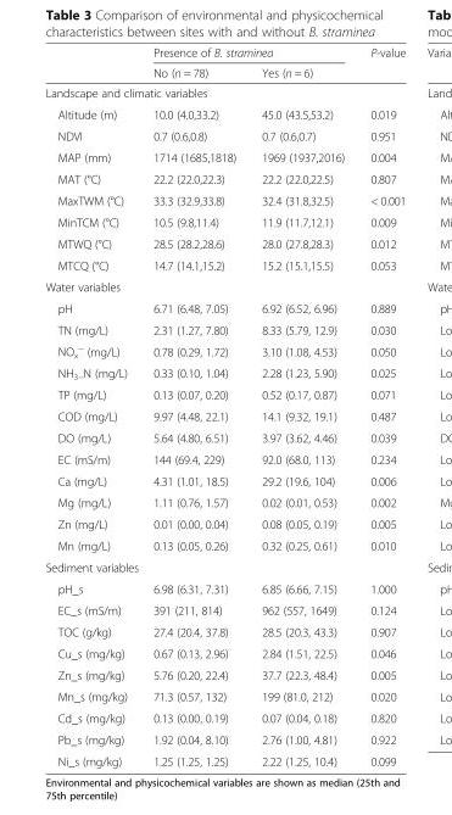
<table><thead><tr><td rowspan="2"></td><td colspan="2">Presence of B. straminea</td><td rowspan="2">P-value</td></tr><tr><td>No (n = 78)</td><td>Yes (n = 6)</td></tr></thead><tbody><tr><td colspan="4">Landscape and climatic variables</td></tr><tr><td>Altitude (m)</td><td>10.0 (4.0,33.2)</td><td>45.0 (43.5,53.2)</td><td>0.019</td></tr><tr><td>NDVI</td><td>0.7 (0.6,0.8)</td><td>0.7 (0.6,0.7)</td><td>0.951</td></tr><tr><td>MAP (mm)</td><td>1714 (1685,1818)</td><td>1969 (1937,2016)</td><td>0.004</td></tr><tr><td>MAT (°C)</td><td>22.2 (22.0,22.3)</td><td>22.2 (22.0,22.5)</td><td>0.807</td></tr><tr><td>MaxTWM (°C)</td><td>33.3 (32.9,33.8)</td><td>32.4 (31.8,32.5)</td><td>&lt; 0.001</td></tr><tr><td>MinTCM (°C)</td><td>10.5 (9.8,11.4)</td><td>11.9 (11.7,12.1)</td><td>0.009</td></tr><tr><td>MTWQ (°C)</td><td>28.5 (28.2,28.6)</td><td>28.0 (27.8,28.3)</td><td>0.012</td></tr><tr><td>MTCQ (°C)</td><td>14.7 (14.1,15.2)</td><td>15.2 (15.1,15.5)</td><td>0.053</td></tr><tr><td colspan="4">Water variables</td></tr><tr><td>pH</td><td>6.71 (6.48, 7.05)</td><td>6.92 (6.52, 6.96)</td><td>0.889</td></tr><tr><td>TN (mg/L)</td><td>2.31 (1.27, 7.80)</td><td>8.33 (5.79, 12.9)</td><td>0.030</td></tr><tr><td>NO<sub>x</sub> <sup>−</sup> (mg/L)</td><td>0.78 (0.29, 1.72)</td><td>3.10 (1.08, 4.53)</td><td>0.050</td></tr><tr><td>NH<sub>3−</sub>N (mg/L)</td><td>0.33 (0.10, 1.04)</td><td>2.28 (1.23, 5.90)</td><td>0.025</td></tr><tr><td>TP (mg/L)</td><td>0.13 (0.07, 0.20)</td><td>0.52 (0.17, 0.87)</td><td>0.071</td></tr><tr><td>COD (mg/L)</td><td>9.97 (4.48, 22.1)</td><td>14.1 (9.32, 19.1)</td><td>0.487</td></tr><tr><td>DO (mg/L)</td><td>5.64 (4.80, 6.51)</td><td>3.97 (3.62, 4.46)</td><td>0.039</td></tr><tr><td>EC (mS/m)</td><td>144 (69.4, 229)</td><td>92.0 (68.0, 113)</td><td>0.234</td></tr><tr><td>Ca (mg/L)</td><td>4.31 (1.01, 18.5)</td><td>29.2 (19.6, 104)</td><td>0.006</td></tr><tr><td>Mg (mg/L)</td><td>1.11 (0.76, 1.57)</td><td>0.02 (0.01, 0.53)</td><td>0.002</td></tr><tr><td>Zn (mg/L)</td><td>0.01 (0.00, 0.04)</td><td>0.08 (0.05, 0.19)</td><td>0.005</td></tr><tr><td>Mn (mg/L)</td><td>0.13 (0.05, 0.26)</td><td>0.32 (0.25, 0.61)</td><td>0.010</td></tr><tr><td colspan="4">Sediment variables</td></tr><tr><td>pH_s</td><td>6.98 (6.31, 7.31)</td><td>6.85 (6.66, 7.15)</td><td>1.000</td></tr><tr><td>EC_s (mS/m)</td><td>391 (211, 814)</td><td>962 (557, 1649)</td><td>0.124</td></tr><tr><td>TOC (g/kg)</td><td>27.4 (20.4, 37.8)</td><td>28.5 (20.3, 43.3)</td><td>0.907</td></tr><tr><td>Cu_s (mg/kg)</td><td>0.67 (0.13, 2.96)</td><td>2.84 (1.51, 22.5)</td><td>0.046</td></tr><tr><td>Zn_s (mg/kg)</td><td>5.76 (0.20, 22.4)</td><td>37.7 (22.3, 48.4)</td><td>0.005</td></tr><tr><td>Mn_s (mg/kg)</td><td>71.3 (0.57, 132)</td><td>199 (81.0, 212)</td><td>0.020</td></tr><tr><td>Cd_s (mg/kg)</td><td>0.13 (0.00, 0.19)</td><td>0.07 (0.04, 0.18)</td><td>0.820</td></tr><tr><td>Pb_s (mg/kg)</td><td>1.92 (0.04, 8.10)</td><td>2.76 (1.00, 4.81)</td><td>0.922</td></tr><tr><td>Ni_s (mg/kg)</td><td>1.25 (1.25, 1.25)</td><td>2.22 (1.25, 10.4)</td><td>0.099</td></tr></tbody></table>